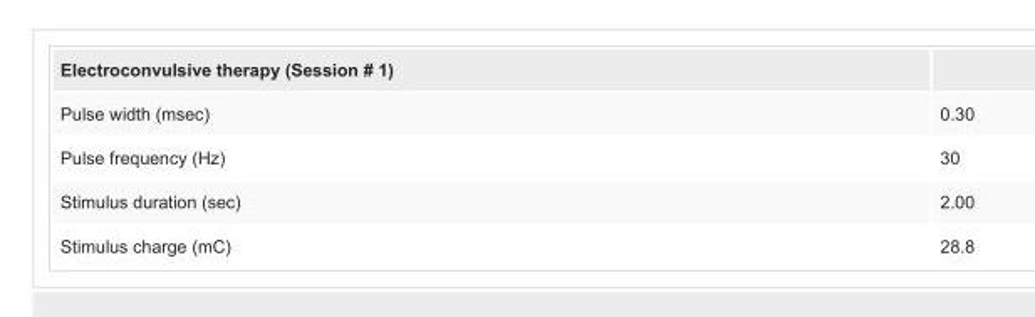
<table><tbody><tr><td colspan="2">Electroconvulsive therapy (Session # 1)</td></tr><tr><td>Pulse width (msec)</td><td>0.30</td></tr><tr><td>Pulse frequency (Hz)</td><td>30</td></tr><tr><td>Stimulus duration (sec)</td><td>2.00</td></tr><tr><td>Stimulus charge (mC)</td><td>28.8</td></tr></tbody></table>